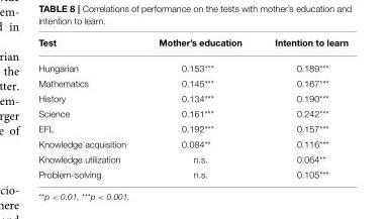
<table><thead><tr><td>Test</td><td>Mother’s education</td><td>Intention to learn</td></tr></thead><tbody><tr><td>Hungarian</td><td>0.153***</td><td>0.189***</td></tr><tr><td>Mathematics</td><td>0.145***</td><td>0.167***</td></tr><tr><td>History</td><td>0.134***</td><td>0.190***</td></tr><tr><td>Science</td><td>0.161***</td><td>0.242***</td></tr><tr><td>EFL</td><td>0.192***</td><td>0.157***</td></tr><tr><td>Knowledge acquisition</td><td>0.084**</td><td>0.116***</td></tr><tr><td>Knowledge utilization</td><td>n.s.</td><td>0.064**</td></tr><tr><td>Problem-solving</td><td>n.s.</td><td>0.105***</td></tr></tbody></table>